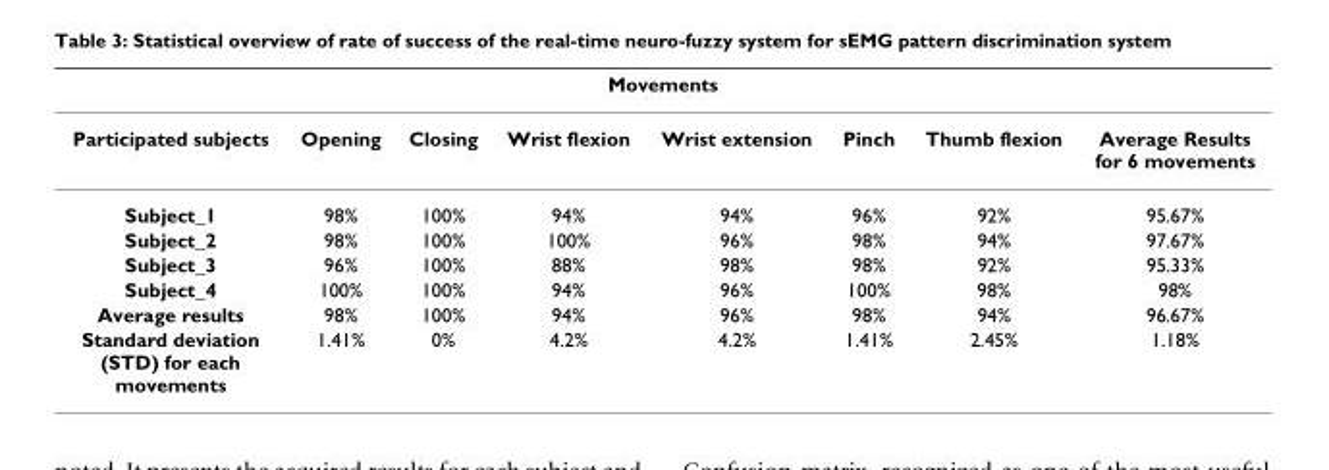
<table><thead><tr><td colspan="8">Movements</td></tr><tr><td>Participated subjects</td><td>Opening</td><td>Closing</td><td>Wrist flexion</td><td>Wrist extension</td><td>Pinch</td><td>Thumb flexion</td><td>Average Results for 6 movements</td></tr></thead><tbody><tr><td>Subject_1</td><td>98%</td><td>100%</td><td>94%</td><td>94%</td><td>96%</td><td>92%</td><td>95.67%</td></tr><tr><td>Subject_2</td><td>98%</td><td>100%</td><td>100%</td><td>96%</td><td>98%</td><td>94%</td><td>97.67%</td></tr><tr><td>Subject_3</td><td>96%</td><td>100%</td><td>88%</td><td>98%</td><td>98%</td><td>92%</td><td>95.33%</td></tr><tr><td>Subject_4</td><td>100%</td><td>100%</td><td>94%</td><td>96%</td><td>100%</td><td>98%</td><td>98%</td></tr><tr><td>Average results</td><td>98%</td><td>100%</td><td>94%</td><td>96%</td><td>98%</td><td>94%</td><td>96.67%</td></tr><tr><td>Standard deviation (STD) for each movements</td><td>1.41%</td><td>0%</td><td>4.2%</td><td>4.2%</td><td>1.41%</td><td>2.45%</td><td>1.18%</td></tr></tbody></table>